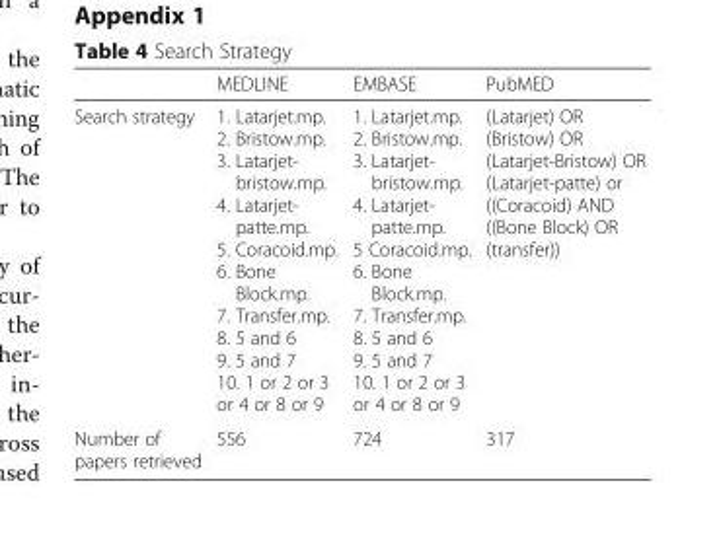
<table><thead><tr><td></td><td>MEDLINE</td><td>EMBASE</td><td>PubMED</td></tr></thead><tbody><tr><td>Search strategy</td><td>1. Latarjet.mp. 2. Bristow.mp. 3. Latarjet- bristow.mp. 4. Latarjet- patte.mp. 5. Coracoid.mp. 6. Bone Block.mp. 7. Transfer.mp. 8. 5 and 6 9. 5 and 7 10. 1 or 2 or 3 or 4 or 8 or 9</td><td>1. Latarjet.mp. 2. Bristow.mp. 3. Latarjet- bristow.mp. 4. Latarjet- patte.mp. 5 Coracoid.mp. 6. Bone Block.mp. 7. Transfer.mp. 8. 5 and 6 9. 5 and 7 10. 1 or 2 or 3 or 4 or 8 or 9</td><td>(Latarjet) OR (Bristow) OR (Latarjet-Bristow) OR (Latarjet-patte) or ((Coracoid) AND ((Bone Block) OR (transfer))</td></tr><tr><td>Number of papers retrieved</td><td>556</td><td>724</td><td>317</td></tr></tbody></table>